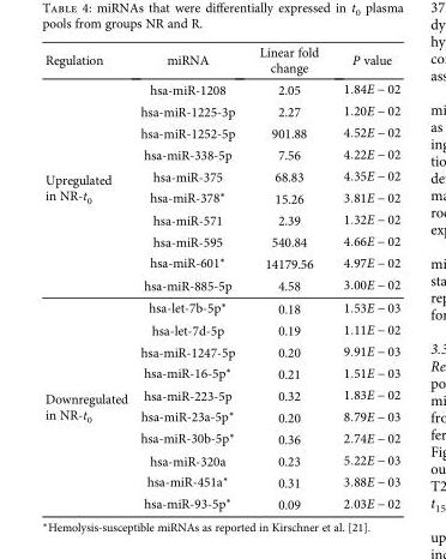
<table><thead><tr><td>Regulation</td><td>miRNA</td><td>Linear fold change</td><td>P value</td></tr></thead><tbody><tr><td rowspan="10">Upregulated in NR-t0</td><td>hsa-miR-1208</td><td>2.05</td><td>1 84E − 02</td></tr><tr><td>hsa-miR-1225-3p</td><td>2.27</td><td>1 20E − 02</td></tr><tr><td>hsa-miR-1252-5p</td><td>901.88</td><td>4 52E − 02</td></tr><tr><td>hsa-miR-338-5p</td><td>7.56</td><td>4 22E − 02</td></tr><tr><td>hsa-miR-375</td><td>68.83</td><td>4 35E − 02</td></tr><tr><td>hsa-miR-378∗</td><td>15.26</td><td>3 81E − 02</td></tr><tr><td>hsa-miR-571</td><td>2.39</td><td>1 32E − 02</td></tr><tr><td>hsa-miR-595</td><td>540.84</td><td>4 66E − 02</td></tr><tr><td>hsa-miR-601∗</td><td>14179.56</td><td>4 97E − 02</td></tr><tr><td>hsa-miR-885-5p</td><td>4.58</td><td>3 00E − 02</td></tr><tr><td rowspan="10">Downregulated in NR-t0</td><td>hsa-let-7b-5p∗</td><td>0.18</td><td>1 53E − 03</td></tr><tr><td>hsa-let-7d-5p</td><td>0.19</td><td>1 11E − 02</td></tr><tr><td>hsa-miR-1247-5p</td><td>0.20</td><td>9 91E − 03</td></tr><tr><td>hsa-miR-16-5p∗</td><td>0.21</td><td>1 51E − 03</td></tr><tr><td>hsa-miR-223-5p</td><td>0.32</td><td>1 83E − 02</td></tr><tr><td>hsa-miR-23a-5p∗</td><td>0.20</td><td>8 79E − 03</td></tr><tr><td>hsa-miR-30b-5p∗</td><td>0.36</td><td>2 74E − 02</td></tr><tr><td>hsa-miR-320a</td><td>0.23</td><td>5 22E − 03</td></tr><tr><td>hsa-miR-451a∗</td><td>0.31</td><td>3 88E − 03</td></tr><tr><td>hsa-miR-93-5p∗</td><td>0.09</td><td>2 03E − 02</td></tr></tbody></table>